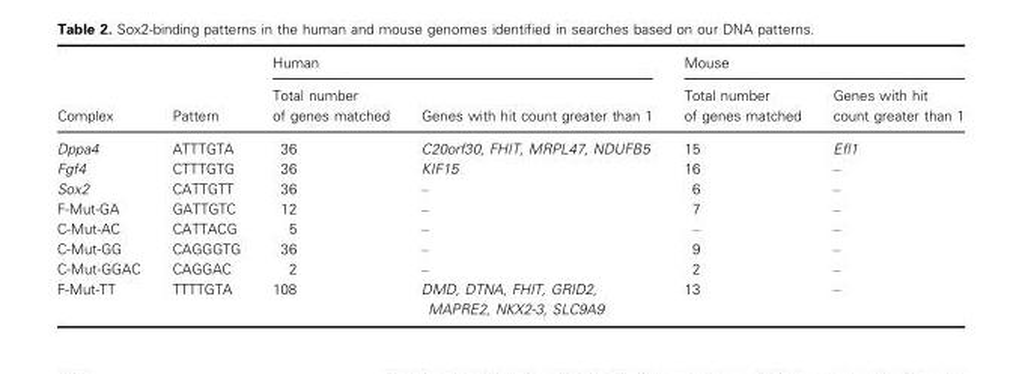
<table><thead><tr><td rowspan="2">Complex</td><td rowspan="2">Pattern</td><td colspan="2">Human</td><td colspan="2">Mouse</td></tr><tr><td>Total number of genes matched</td><td>Genes with hit count greater than 1</td><td>Total number of genes matched</td><td>Genes with hit count greater than 1</td></tr></thead><tbody><tr><td>Dppa4</td><td>ATTTGTA</td><td>36</td><td>C20orf30, FHIT, MRPL47, NDUFB5</td><td>15</td><td>Efl1</td></tr><tr><td>Fgf4</td><td>CTTTGTG</td><td>36</td><td>KIF15</td><td>16</td><td>–</td></tr><tr><td>Sox2</td><td>CATTGTT</td><td>36</td><td>–</td><td>6</td><td>–</td></tr><tr><td>F-Mut-GA</td><td>GATTGTC</td><td>12</td><td>–</td><td>7</td><td>–</td></tr><tr><td>C-Mut-AC</td><td>CATTACG</td><td>5</td><td>–</td><td>–</td><td>–</td></tr><tr><td>C-Mut-GG</td><td>CAGGGTG</td><td>36</td><td>–</td><td>9</td><td>–</td></tr><tr><td>C-Mut-GGAC</td><td>CAGGAC</td><td>2</td><td>–</td><td>2</td><td>–</td></tr><tr><td>F-Mut-TT</td><td>TTTTGTA</td><td>108</td><td>DMD, DTNA, FHIT, GRID2, MAPRE2, NKX2-3, SLC9A9</td><td>13</td><td>–</td></tr></tbody></table>